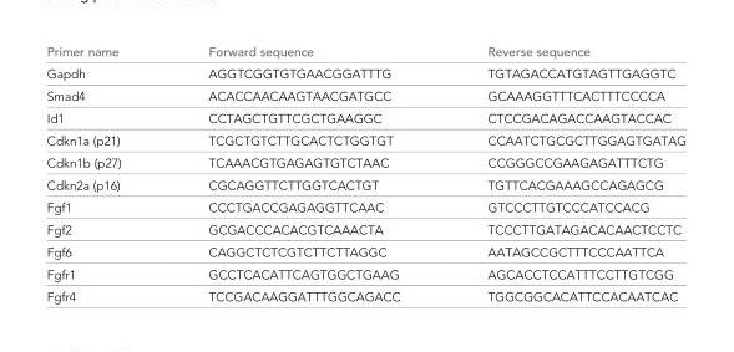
<table><thead><tr><td>Primer name</td><td>Forward sequence</td><td>Reverse sequence</td></tr></thead><tbody><tr><td>Gapdh</td><td>AGGTCGGTGTGAACGGATTTG</td><td>TGTAGACCATGTAGTTGAGGTC</td></tr><tr><td>Smad4</td><td>ACACCAACAAGTAACGATGCC</td><td>GCAAAGGTTTCACTTTCCCCA</td></tr><tr><td>Id1</td><td>CCTAGCTGTTCGCTGAAGGC</td><td>CTCCGACAGACCAAGTACCAC</td></tr><tr><td>Cdkn1a (p21)</td><td>TCGCTGTCTTGCACTCTGGTGT</td><td>CCAATCTGCGCTTGGAGTGATAG</td></tr><tr><td>Cdkn1b (p27)</td><td>TCAAACGTGAGAGTGTCTAAC</td><td>CCGGGCCGAAGAGATTTCTG</td></tr><tr><td>Cdkn2a (p16)</td><td>CGCAGGTTCTTGGTCACTGT</td><td>TGTTCACGAAAGCCAGAGCG</td></tr><tr><td>Fgf1</td><td>CCCTGACCGAGAGGTTCAAC</td><td>GTCCCTTGTCCCATCCACG</td></tr><tr><td>Fgf2</td><td>GCGACCCACACGTCAAACTA</td><td>TCCCTTGATAGACACAACTCCTC</td></tr><tr><td>Fgf6</td><td>CAGGCTCTCGTCTTCTTAGGC</td><td>AATAGCCGCTTTCCCAATTCA</td></tr><tr><td>Fgfr1</td><td>GCCTCACATTCAGTGGCTGAAG</td><td>AGCACCTCCATTTCCTTGTCGG</td></tr><tr><td>Fgfr4</td><td>TCCGACAAGGATTTGGCAGACC</td><td>TGGCGGCACATTCCACAATCAC</td></tr></tbody></table>